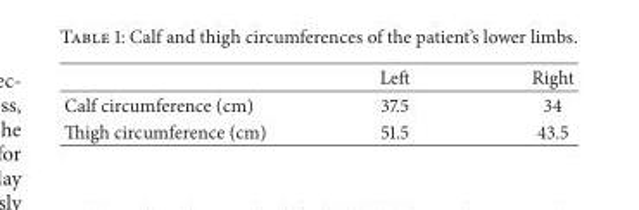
<table><thead><tr><td></td><td>Left</td><td>Right</td></tr></thead><tbody><tr><td>Calf circumference (cm)</td><td>37.5</td><td>34</td></tr><tr><td>Thigh circumference (cm)</td><td>51.5</td><td>43.5</td></tr></tbody></table>